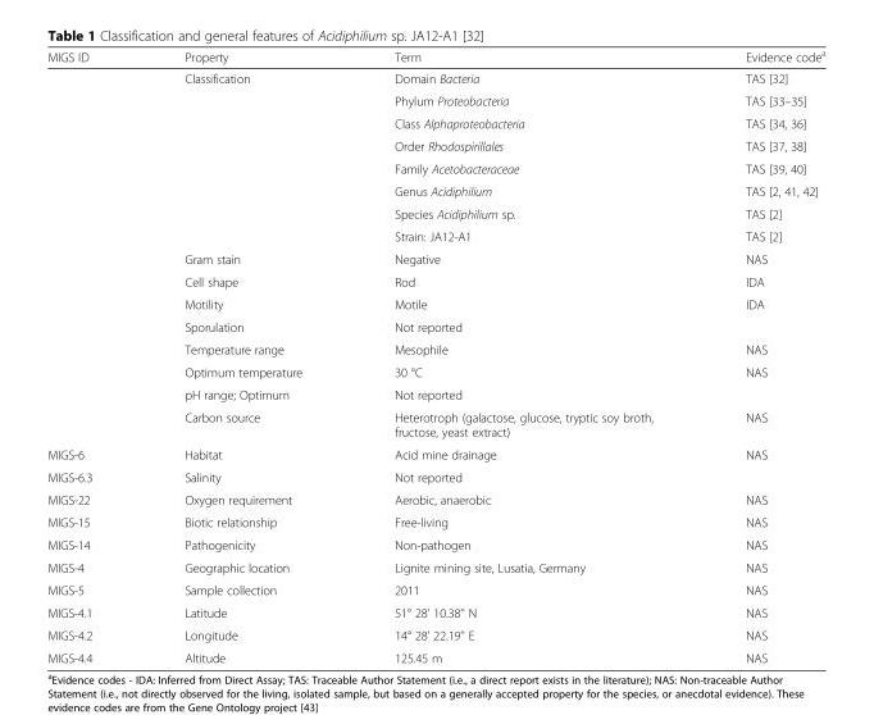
<table><thead><tr><td>MIGS ID</td><td>Property</td><td>Term</td><td>Evidence code<sup>a</sup></td></tr></thead><tbody><tr><td></td><td>Classification</td><td>Domain Bacteria</td><td>TAS [32]</td></tr><tr><td></td><td></td><td>Phylum Proteobacteria</td><td>TAS [33–35]</td></tr><tr><td></td><td></td><td>Class Alphaproteobacteria</td><td>TAS [34, 36]</td></tr><tr><td></td><td></td><td>Order Rhodospirillales</td><td>TAS [37, 38]</td></tr><tr><td></td><td></td><td>Family Acetobacteraceae</td><td>TAS [39, 40]</td></tr><tr><td></td><td></td><td>Genus Acidiphilium</td><td>TAS [2, 41, 42]</td></tr><tr><td></td><td></td><td>Species Acidiphilium sp.</td><td>TAS [2]</td></tr><tr><td></td><td></td><td>Strain: JA12-A1</td><td>TAS [2]</td></tr><tr><td></td><td>Gram stain</td><td>Negative</td><td>NAS</td></tr><tr><td></td><td>Cell shape</td><td>Rod</td><td>IDA</td></tr><tr><td></td><td>Motility</td><td>Motile</td><td>IDA</td></tr><tr><td></td><td>Sporulation</td><td>Not reported</td><td></td></tr><tr><td></td><td>Temperature range</td><td>Mesophile</td><td>NAS</td></tr><tr><td></td><td>Optimum temperature</td><td>30 °C</td><td>NAS</td></tr><tr><td></td><td>pH range; Optimum</td><td>Not reported</td><td></td></tr><tr><td></td><td>Carbon source</td><td>Heterotroph (galactose, glucose, tryptic soy broth, fructose, yeast extract)</td><td>NAS</td></tr><tr><td>MIGS-6</td><td>Habitat</td><td>Acid mine drainage</td><td>NAS</td></tr><tr><td>MIGS-6.3</td><td>Salinity</td><td>Not reported</td><td></td></tr><tr><td>MIGS-22</td><td>Oxygen requirement</td><td>Aerobic, anaerobic</td><td>NAS</td></tr><tr><td>MIGS-15</td><td>Biotic relationship</td><td>Free-living</td><td>NAS</td></tr><tr><td>MIGS-14</td><td>Pathogenicity</td><td>Non-pathogen</td><td>NAS</td></tr><tr><td>MIGS-4</td><td>Geographic location</td><td>Lignite mining site, Lusatia, Germany</td><td>NAS</td></tr><tr><td>MIGS-5</td><td>Sample collection</td><td>2011</td><td>NAS</td></tr><tr><td>MIGS-4.1</td><td>Latitude</td><td>51° 28&#x27; 10.38&#x27;&#x27; N</td><td>NAS</td></tr><tr><td>MIGS-4.2</td><td>Longitude</td><td>14° 28&#x27; 22.19&#x27;&#x27; E</td><td>NAS</td></tr><tr><td>MIGS-4.4</td><td>Altitude</td><td>125.45 m</td><td>NAS</td></tr></tbody></table>